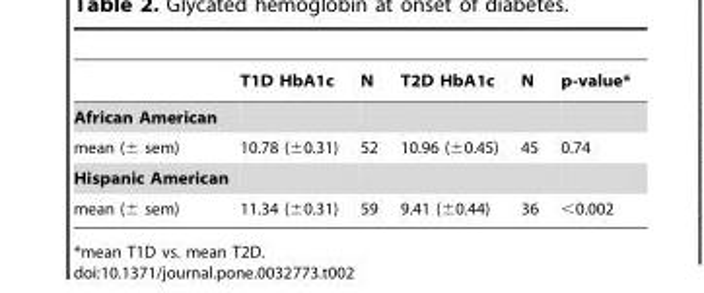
<table><thead><tr><td></td><td>T1D HbA1c</td><td>N</td><td>T2D HbA1c</td><td>N</td><td>p-value*</td></tr></thead><tbody><tr><td colspan="6">African American</td></tr><tr><td>mean (± sem)</td><td>10.78 (±0.31)</td><td>52</td><td>10.96 (±0.45)</td><td>45</td><td>0.74</td></tr><tr><td colspan="6">Hispanic American</td></tr><tr><td>mean (± sem)</td><td>11.34 (±0.31)</td><td>59</td><td>9.41 (±0.44)</td><td>36</td><td>&lt;0.002</td></tr></tbody></table>